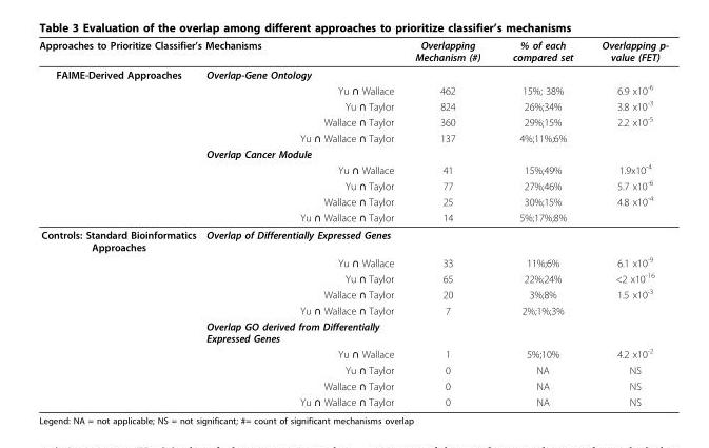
<table><thead><tr><td colspan="2">Approaches to Prioritize Classifier’s Mechanisms</td><td rowspan="2">Overlapping Mechanism (#)</td><td rowspan="2">% of each compared set</td><td rowspan="2">Overlapping p- value (FET)</td></tr><tr><td>FAIME-Derived Approaches</td><td>Overlap-Gene Ontology</td></tr></thead><tbody><tr><td></td><td>Yu ∩ Wallace</td><td>462</td><td>15%; 38%</td><td>6.9 x10<sup>-6</sup></td></tr><tr><td></td><td>Yu ∩ Taylor</td><td>824</td><td>26%;34%</td><td>3.8 x10<sup>-3</sup></td></tr><tr><td></td><td>Wallace ∩ Taylor</td><td>360</td><td>29%;15%</td><td>2.2 x10<sup>-5</sup></td></tr><tr><td></td><td>Yu ∩ Wallace ∩ Taylor</td><td>137</td><td>4%;11%;6%</td><td></td></tr><tr><td></td><td>Overlap Cancer Module</td><td></td><td></td><td></td></tr><tr><td></td><td>Yu ∩ Wallace</td><td>41</td><td>15%;49%</td><td>1.9x10<sup>-4</sup></td></tr><tr><td></td><td>Yu ∩ Taylor</td><td>77</td><td>27%;46%</td><td>5.7 x10<sup>-6</sup></td></tr><tr><td></td><td>Wallace ∩ Taylor</td><td>25</td><td>30%;15%</td><td>4.8 x10<sup>-4</sup></td></tr><tr><td></td><td>Yu ∩ Wallace ∩ Taylor</td><td>14</td><td>5%;17%;8%</td><td></td></tr><tr><td rowspan="10">Controls: Standard Bioinformatics Approaches</td><td>Overlap of Differentially Expressed Genes</td><td></td><td></td><td></td></tr><tr><td>Yu ∩ Wallace</td><td>33</td><td>11%;6%</td><td>6.1 x10<sup>-9</sup></td></tr><tr><td>Yu ∩ Taylor</td><td>65</td><td>22%;24%</td><td>&lt;2 x10<sup>-16</sup></td></tr><tr><td>Wallace ∩ Taylor</td><td>20</td><td>3%;8%</td><td>1.5 x10<sup>-3</sup></td></tr><tr><td>Yu ∩ Wallace ∩ Taylor</td><td>7</td><td>2%;1%;3%</td><td></td></tr><tr><td>Overlap GO derived from Differentially Expressed Genes</td><td></td><td></td><td></td></tr><tr><td>Yu ∩ Wallace</td><td>1</td><td>5%;10%</td><td>4.2 x10<sup>-2</sup></td></tr><tr><td>Yu ∩ Taylor</td><td>0</td><td>NA</td><td>NS</td></tr><tr><td>Wallace ∩ Taylor</td><td>0</td><td>NA</td><td>NS</td></tr><tr><td>Yu ∩ Wallace ∩ Taylor</td><td>0</td><td>NA</td><td>NS</td></tr></tbody></table>